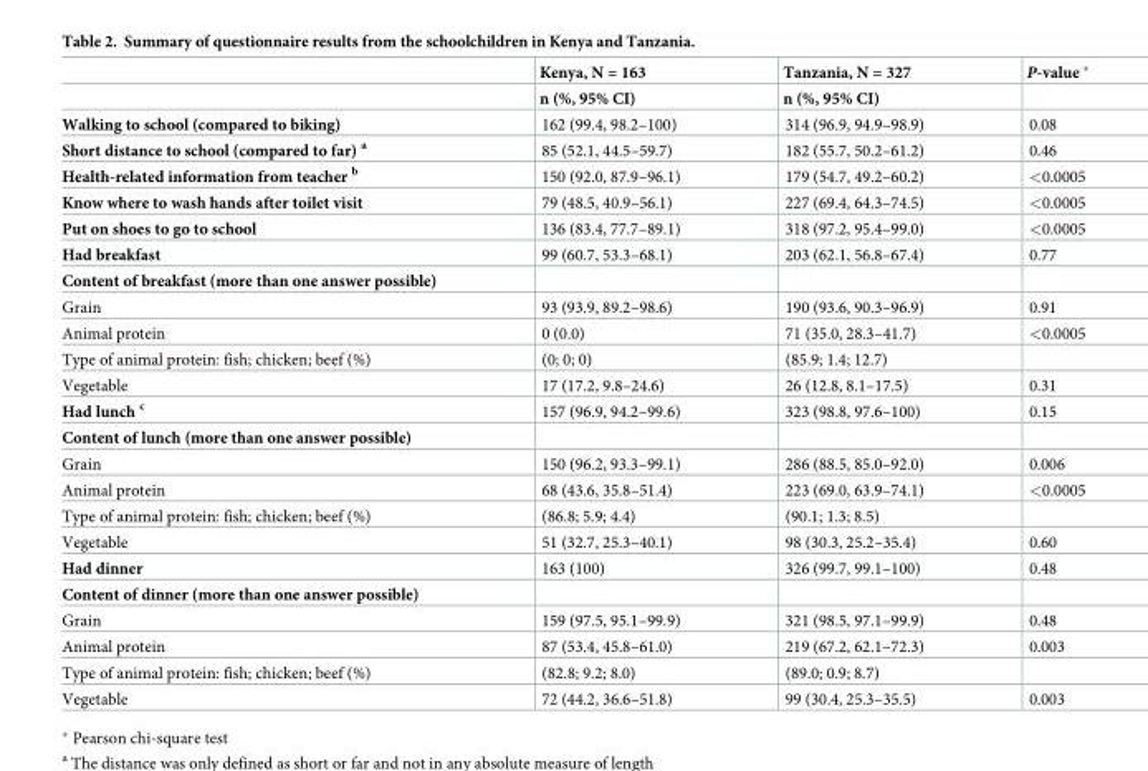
<table><thead><tr><td rowspan="2"></td><td rowspan="2">Kenya, N = 163 n (%, 95% CI)</td><td rowspan="2">Tanzania, N = 327 n (%, 95% CI)</td><td rowspan="2">P-value</td></tr><tr></tr></thead><tbody><tr><td>Walking to school (compared to biking)</td><td>162 (99.4, 98.2–100)</td><td>314 (96.9, 94.9–98.9)</td><td>0.08</td></tr><tr><td>Short distance to school (compared to far) <sup>a</sup></td><td>85 (52.1, 44.5–59.7)</td><td>182 (55.7, 50.2–61.2)</td><td>0.46</td></tr><tr><td>Health-related information from teacher <sup>b</sup></td><td>150 (92.0, 87.9–96.1)</td><td>179 (54.7, 49.2–60.2)</td><td>&lt;0.0005</td></tr><tr><td>Know where to wash hands after toilet visit</td><td>79 (48.5, 40.9–56.1)</td><td>227 (69.4, 64.3–74.5)</td><td>&lt;0.0005</td></tr><tr><td>Put on shoes to go to school</td><td>136 (83.4, 77.7–89.1)</td><td>318 (97.2, 95.4–99.0)</td><td>&lt;0.0005</td></tr><tr><td>Had breakfast</td><td>99 (60.7, 53.3–68.1)</td><td>203 (62.1, 56.8–67.4)</td><td>0.77</td></tr><tr><td colspan="4">Content of breakfast (more than one answer possible)</td></tr><tr><td>Grain</td><td>93 (93.9, 89.2–98.6)</td><td>190 (93.6, 90.3–96.9)</td><td>0.91</td></tr><tr><td>Animal protein</td><td>0 (0.0)</td><td>71 (35.0, 28.3–41.7)</td><td>&lt;0.0005</td></tr><tr><td>Type of animal protein: fish; chicken; beef (%)</td><td>(0; 0; 0)</td><td>(85.9; 1.4; 12.7)</td><td></td></tr><tr><td>Vegetable</td><td>17 (17.2, 9.8–24.6)</td><td>26 (12.8, 8.1–17.5)</td><td>0.31</td></tr><tr><td>Had lunch <sup>c</sup></td><td>157 (96.9, 94.2–99.6)</td><td>323 (98.8, 97.6–100)</td><td>0.15</td></tr><tr><td colspan="4">Content of lunch (more than one answer possible)</td></tr><tr><td>Grain</td><td>150 (96.2, 93.3–99.1)</td><td>286 (88.5, 85.0–92.0)</td><td>0.006</td></tr><tr><td>Animal protein</td><td>68 (43.6, 35.8–51.4)</td><td>223 (69.0, 63.9–74.1)</td><td>&lt;0.0005</td></tr><tr><td>Type of animal protein: fish; chicken; beef (%)</td><td>(86.8; 5.9; 4.4)</td><td>(90.1; 1.3; 8.5)</td><td></td></tr><tr><td>Vegetable</td><td>51 (32.7, 25.3–40.1)</td><td>98 (30.3, 25.2–35.4)</td><td>0.60</td></tr><tr><td>Had dinner</td><td>163 (100)</td><td>326 (99.7, 99.1–100)</td><td>0.48</td></tr><tr><td colspan="4">Content of dinner (more than one answer possible)</td></tr><tr><td>Grain</td><td>159 (97.5, 95.1–99.9)</td><td>321 (98.5, 97.1–99.9)</td><td>0.48</td></tr><tr><td>Animal protein</td><td>87 (53.4, 45.8–61.0)</td><td>219 (67.2, 62.1–72.3)</td><td>0.003</td></tr><tr><td>Type of animal protein: fish; chicken; beef (%)</td><td>(82.8; 9.2; 8.0)</td><td>(89.0; 0.9; 8.7)</td><td></td></tr><tr><td>Vegetable</td><td>72 (44.2, 36.6–51.8)</td><td>99 (30.4, 25.3–35.5)</td><td>0.003</td></tr></tbody></table>